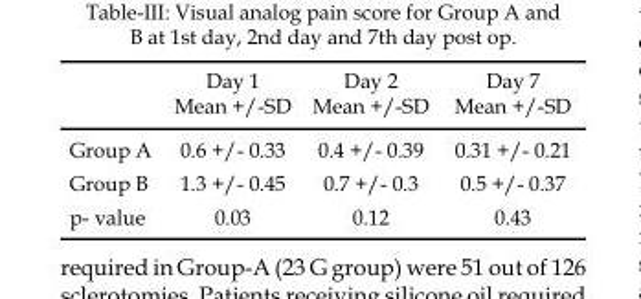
<table><thead><tr><td></td><td>Day 1 Mean +/-SD</td><td>Day 2 Mean +/-SD</td><td>Day 7 Mean +/-SD</td></tr></thead><tbody><tr><td>Group A</td><td>0.6 +/- 0.33</td><td>0.4 +/- 0.39</td><td>0.31 +/- 0.21</td></tr><tr><td>Group B</td><td>1.3 +/- 0.45</td><td>0.7 +/- 0.3</td><td>0.5 +/- 0.37</td></tr><tr><td>p- value</td><td>0.03</td><td>0.12</td><td>0.43</td></tr></tbody></table>